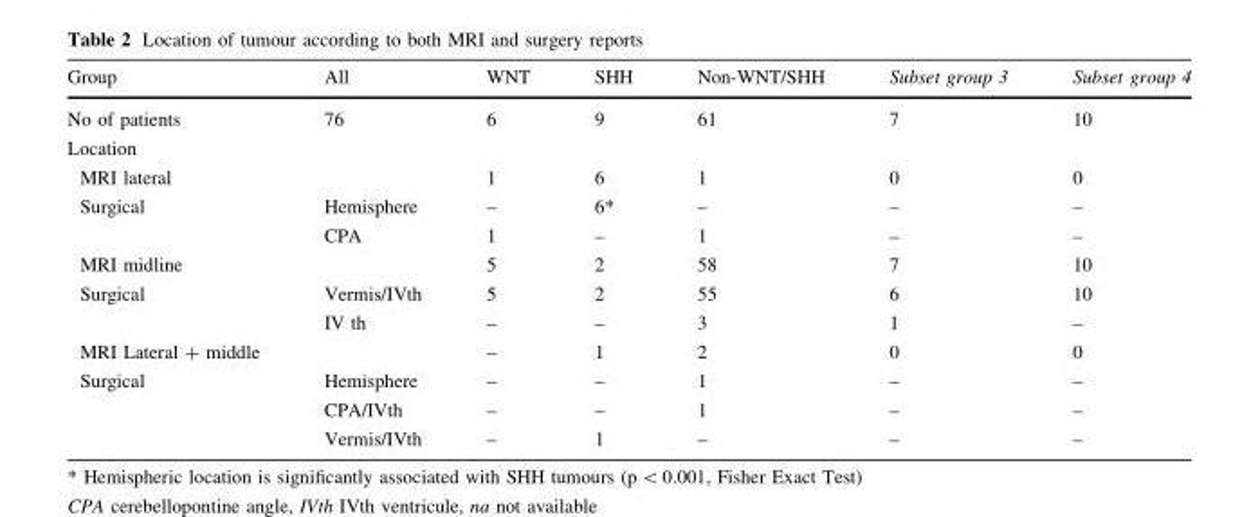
<table><thead><tr><td>Group</td><td>All</td><td>WNT</td><td>SHH</td><td>Non-WNT/SHH</td><td>Subset group 3</td><td>Subset group 4</td></tr></thead><tbody><tr><td>No of patients</td><td>76</td><td>6</td><td>9</td><td>61</td><td>7</td><td>10</td></tr><tr><td colspan="7">Location</td></tr><tr><td>MRI lateral</td><td></td><td>1</td><td>6</td><td>1</td><td>0</td><td>0</td></tr><tr><td rowspan="2">Surgical</td><td>Hemisphere</td><td>–</td><td>6*</td><td>–</td><td>–</td><td>–</td></tr><tr><td>CPA</td><td>1</td><td>–</td><td>1</td><td>–</td><td>–</td></tr><tr><td>MRI midline</td><td></td><td>5</td><td>2</td><td>58</td><td>7</td><td>10</td></tr><tr><td rowspan="2">Surgical</td><td>Vermis/IVth</td><td>5</td><td>2</td><td>55</td><td>6</td><td>10</td></tr><tr><td>IV th</td><td>–</td><td>–</td><td>3</td><td>1</td><td>–</td></tr><tr><td>MRI Lateral + middle</td><td></td><td>–</td><td>1</td><td>2</td><td>0</td><td>0</td></tr><tr><td rowspan="3">Surgical</td><td>Hemisphere</td><td>–</td><td>–</td><td>1</td><td>–</td><td>–</td></tr><tr><td>CPA/IVth</td><td>–</td><td>–</td><td>1</td><td>–</td><td>–</td></tr><tr><td>Vermis/IVth</td><td>–</td><td>1</td><td>–</td><td>–</td><td>–</td></tr></tbody></table>